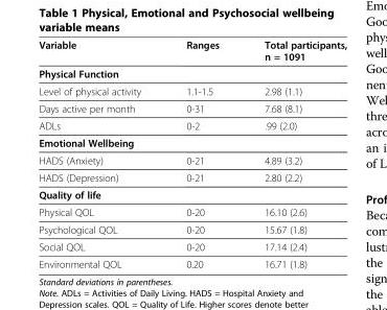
<table><thead><tr><td>Variable</td><td>Ranges</td><td>Total participants, n = 1091</td></tr></thead><tbody><tr><td colspan="3">Physical Function</td></tr><tr><td>Level of physical activity</td><td>1.1-1.5</td><td>2.98 (1.1)</td></tr><tr><td>Days active per month</td><td>0-31</td><td>7.68 (8.1)</td></tr><tr><td>ADLs</td><td>0-2</td><td>.99 (2.0)</td></tr><tr><td colspan="3">Emotional Wellbeing</td></tr><tr><td>HADS (Anxiety)</td><td>0-21</td><td>4.89 (3.2)</td></tr><tr><td>HADS (Depression)</td><td>0-21</td><td>2.80 (2.2)</td></tr><tr><td colspan="3">Quality of life</td></tr><tr><td>Physical QOL</td><td>0-20</td><td>16.10 (2.6)</td></tr><tr><td>Psychological QOL</td><td>0-20</td><td>15.67 (1.8)</td></tr><tr><td>Social QOL</td><td>0-20</td><td>17.14 (2.4)</td></tr><tr><td>Environmental QOL</td><td>0.20</td><td>16.71 (1.8)</td></tr></tbody></table>